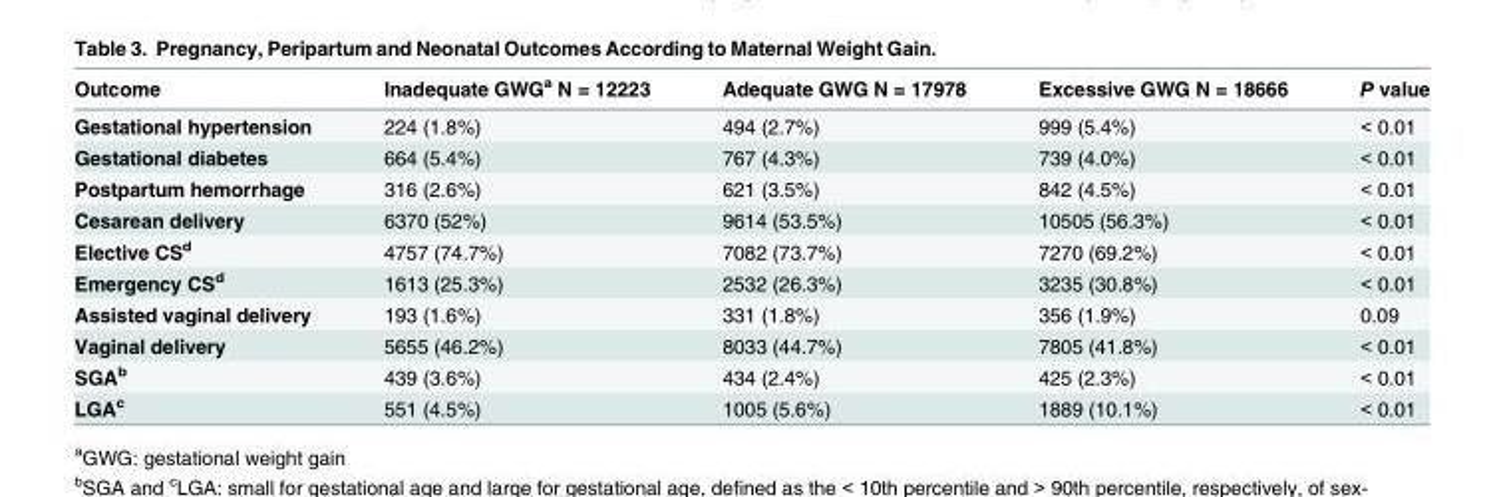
<table><thead><tr><td>Outcome</td><td>Inadequate GWG<sup>a</sup> N = 12223</td><td>Adequate GWG N = 17978</td><td>Excessive GWG N = 18666</td><td>P value</td></tr></thead><tbody><tr><td>Gestational hypertension</td><td>224 (1.8%)</td><td>494 (2.7%)</td><td>999 (5.4%)</td><td>&lt; 0.01</td></tr><tr><td>Gestational diabetes</td><td>664 (5.4%)</td><td>767 (4.3%)</td><td>739 (4.0%)</td><td>&lt; 0.01</td></tr><tr><td>Postpartum hemorrhage</td><td>316 (2.6%)</td><td>621 (3.5%)</td><td>842 (4.5%)</td><td>&lt; 0.01</td></tr><tr><td>Cesarean delivery</td><td>6370 (52%)</td><td>9614 (53.5%)</td><td>10505 (56.3%)</td><td>&lt; 0.01</td></tr><tr><td>Elective CS<sup>d</sup></td><td>4757 (74.7%)</td><td>7082 (73.7%)</td><td>7270 (69.2%)</td><td>&lt; 0.01</td></tr><tr><td>Emergency CS<sup>d</sup></td><td>1613 (25.3%)</td><td>2532 (26.3%)</td><td>3235 (30.8%)</td><td>&lt; 0.01</td></tr><tr><td>Assisted vaginal delivery</td><td>193 (1.6%)</td><td>331 (1.8%)</td><td>356 (1.9%)</td><td>0.09</td></tr><tr><td>Vaginal delivery</td><td>5655 (46.2%)</td><td>8033 (44.7%)</td><td>7805 (41.8%)</td><td>&lt; 0.01</td></tr><tr><td>SGA<sup>b</sup></td><td>439 (3.6%)</td><td>434 (2.4%)</td><td>425 (2.3%)</td><td>&lt; 0.01</td></tr><tr><td>LGA<sup>c</sup></td><td>551 (4.5%)</td><td>1005 (5.6%)</td><td>1889 (10.1%)</td><td>&lt; 0.01</td></tr></tbody></table>